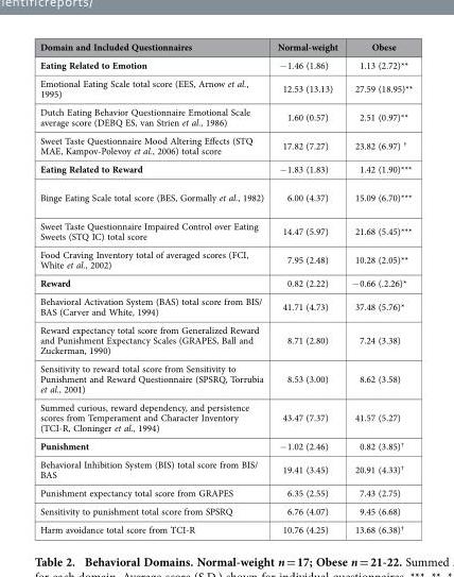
<table><thead><tr><td>Domain and Included Questionnaires</td><td>Normal-weight</td><td>Obese</td></tr></thead><tbody><tr><td>Eating Related to Emotion</td><td>− 1.46 (1.86)</td><td>1.13 (2.72)**</td></tr><tr><td>Emotional Eating Scale total score (EES, Arnow et al., 1995)</td><td>12.53 (13.13)</td><td>27.59 (18.95)**</td></tr><tr><td>Dutch Eating Behavior Questionnaire Emotional Scale average score (DEBQ ES, van Strien et al., 1986)</td><td>1.60 (0.57)</td><td>2.51 (0.97)**</td></tr><tr><td>Sweet Taste Questionnaire Mood Altering Effects (STQ MAE, Kampov-Polevoy et al., 2006) total score</td><td>17.82 (7.27)</td><td>23.82 (6.97) <sup>†</sup></td></tr><tr><td>Eating Related to Reward</td><td>− 1.83 (1.83)</td><td>1.42 (1.90)***</td></tr><tr><td>Binge Eating Scale total score (BES, Gormally et al., 1982)</td><td>6.00 (4.37)</td><td>15.09 (6.70)***</td></tr><tr><td>Sweet Taste Questionnaire Impaired Control over Eating Sweets (STQ IC) total score</td><td>14.47 (5.97)</td><td>21.68 (5.45)***</td></tr><tr><td>Food Craving Inventory total of averaged scores (FCI, White et al., 2002)</td><td>7.95 (2.48)</td><td>10.28 (2.05)**</td></tr><tr><td>Reward</td><td>0.82 (2.22)</td><td>− 0.66 (.2.26)*</td></tr><tr><td>Behavioral Activation System (BAS) total score from BIS/ BAS (Carver and White, 1994)</td><td>41.71 (4.73)</td><td>37.48 (5.76)*</td></tr><tr><td>Reward expectancy total score from Generalized Reward and Punishment Expectancy Scales (GRAPES, Ball and Zuckerman, 1990)</td><td>8.71 (2.80)</td><td>7.24 (3.38)</td></tr><tr><td>Sensitivity to reward total score from Sensitivity to Punishment and Reward Questionnaire (SPSRQ, Torrubia et al., 2001)</td><td>8.53 (3.00)</td><td>8.62 (3.58)</td></tr><tr><td>Summed curious, reward dependency, and persistence scores from Temperament and Character Inventory (TCI-R, Cloninger et al., 1994)</td><td>43.47 (7.37)</td><td>41.57 (5.27)</td></tr><tr><td>Punishment</td><td>− 1.02 (2.46)</td><td>0.82 (3.85)<sup>†</sup></td></tr><tr><td>Behavioral Inhibition System (BIS) total score from BIS/ BAS</td><td>19.41 (3.45)</td><td>20.91 (4.33)<sup>†</sup></td></tr><tr><td>Punishment expectancy total score from GRAPES</td><td>6.35 (2.55)</td><td>7.43 (2.75)</td></tr><tr><td>Sensitivity to punishment total score from SPSRQ</td><td>6.76 (4.07)</td><td>9.45 (6.68)</td></tr><tr><td>Harm avoidance total score from TCI-R</td><td>10.76 (4.25)</td><td>13.68 (6.38)<sup>†</sup></td></tr></tbody></table>